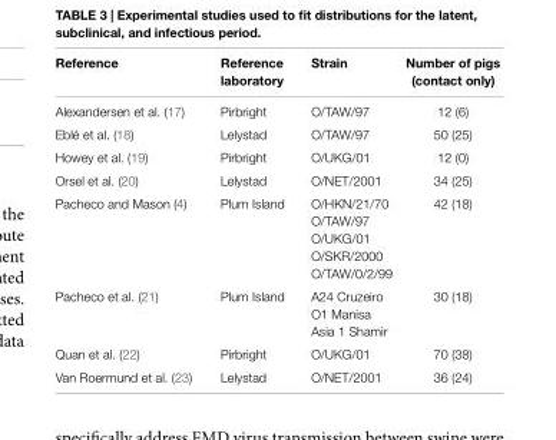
<table><thead><tr><td>reference</td><td>reference laboratory</td><td>strain</td><td>number of pigs (contact only)</td></tr></thead><tbody><tr><td>Alexandersen et al. (17)</td><td>Pirbright</td><td>O/TAW/97</td><td>12 (6)</td></tr><tr><td>Eblé et al. (18)</td><td>Lelystad</td><td>O/TAW/97</td><td>50 (25)</td></tr><tr><td>Howey et al. (19)</td><td>Pirbright</td><td>O/UKG/01</td><td>12 (0)</td></tr><tr><td>Orsel et al. (20)</td><td>Lelystad</td><td>O/NET/2001</td><td>34 (25)</td></tr><tr><td rowspan="5">Pacheco and Mason (4)</td><td>Plum Island</td><td>O/HKN/21/70</td><td>42 (18)</td></tr><tr><td></td><td>O/TAW/97</td><td></td></tr><tr><td></td><td>O/UKG/01</td><td></td></tr><tr><td></td><td>O/SKR/2000</td><td></td></tr><tr><td></td><td>O/TAW/0/2/99</td><td></td></tr><tr><td rowspan="3">Pacheco et al. (21)</td><td>Plum Island</td><td>A24 Cruzeiro</td><td>30 (18)</td></tr><tr><td></td><td>O1 Manisa</td><td></td></tr><tr><td></td><td>Asia 1 Shamir</td><td></td></tr><tr><td>Quan et al. (22)</td><td>Pirbright</td><td>O/UKG/01</td><td>70 (38)</td></tr><tr><td>Van Roermund et al. (23)</td><td>Lelystad</td><td>O/NET/2001</td><td>36 (24)</td></tr></tbody></table>